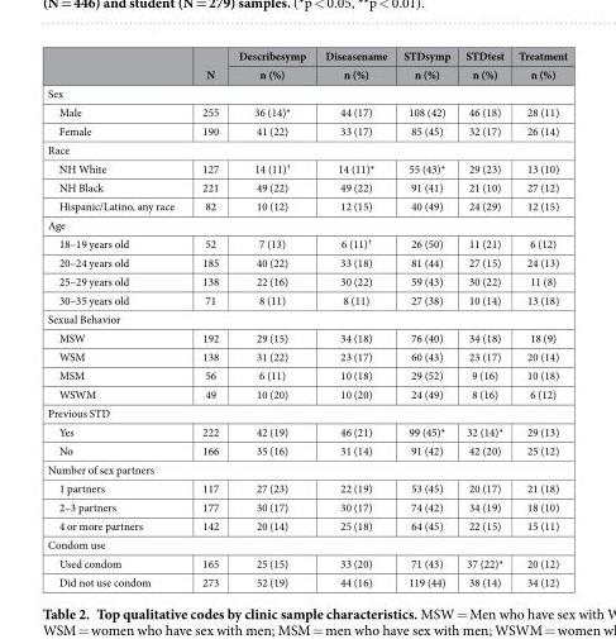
<table><thead><tr><td rowspan="2"></td><td rowspan="2">N</td><td rowspan="2">Describesymp n (%)</td><td rowspan="2">Diseasename n (%)</td><td rowspan="2">STDsymp n (%)</td><td rowspan="2">STDtest n (%)</td><td rowspan="2">Treatment n (%)</td></tr><tr></tr></thead><tbody><tr><td colspan="7">Sex</td></tr><tr><td>Male</td><td>255</td><td>36 (14)*</td><td>44 (17)</td><td>108 (42)</td><td>46 (18)</td><td>28 (11)</td></tr><tr><td>Female</td><td>190</td><td>41 (22)</td><td>33 (17)</td><td>85 (45)</td><td>32 (17)</td><td>26 (14)</td></tr><tr><td colspan="7">Race</td></tr><tr><td>NH White</td><td>127</td><td>14 (11)<sup>†</sup></td><td>14 (11)*</td><td>55 (43)*</td><td>29 (23)</td><td>13 (10)</td></tr><tr><td>NH Black</td><td>221</td><td>49 (22)</td><td>49 (22)</td><td>91 (41)</td><td>21 (10)</td><td>27 (12)</td></tr><tr><td>Hispanic/Latino, any race</td><td>82</td><td>10 (12)</td><td>12 (15)</td><td>40 (49)</td><td>24 (29)</td><td>12 (15)</td></tr><tr><td colspan="7">Age</td></tr><tr><td>18–19 years old</td><td>52</td><td>7 (13)</td><td>6 (11)<sup>†</sup></td><td>26 (50)</td><td>11 (21)</td><td>6 (12)</td></tr><tr><td>20–24 years old</td><td>185</td><td>40 (22)</td><td>33 (18)</td><td>81 (44)</td><td>27 (15)</td><td>24 (13)</td></tr><tr><td>25–29 years old</td><td>138</td><td>22 (16)</td><td>30 (22)</td><td>59 (43)</td><td>30 (22)</td><td>11 (8)</td></tr><tr><td>30–35 years old</td><td>71</td><td>8 (11)</td><td>8 (11)</td><td>27 (38)</td><td>10 (14)</td><td>13 (18)</td></tr><tr><td colspan="7">Sexual Behavior</td></tr><tr><td>MSW</td><td>192</td><td>29 (15)</td><td>34 (18)</td><td>76 (40)</td><td>34 (18)</td><td>18 (9)</td></tr><tr><td>WSM</td><td>138</td><td>31 (22)</td><td>23 (17)</td><td>60 (43)</td><td>23 (17)</td><td>20 (14)</td></tr><tr><td>MSM</td><td>56</td><td>6 (11)</td><td>10 (18)</td><td>29 (52)</td><td>9 (16)</td><td>10 (18)</td></tr><tr><td>WSWM</td><td>49</td><td>10 (20)</td><td>10 (20)</td><td>24 (49)</td><td>8 (16)</td><td>6 (12)</td></tr><tr><td colspan="7">Previous STD</td></tr><tr><td>Yes</td><td>222</td><td>42 (19)</td><td>46 (21)</td><td>99 (45)*</td><td>32 (14)*</td><td>29 (13)</td></tr><tr><td>No</td><td>166</td><td>35 (16)</td><td>31 (14)</td><td>91 (42)</td><td>42 (20)</td><td>25 (12)</td></tr><tr><td colspan="7">Number of sex partners</td></tr><tr><td>1 partners</td><td>117</td><td>27 (23)</td><td>22 (19)</td><td>53 (45)</td><td>20 (17)</td><td>21 (18)</td></tr><tr><td>2–3 partners</td><td>177</td><td>30 (17)</td><td>30 (17)</td><td>74 (42)</td><td>34 (19)</td><td>18 (10)</td></tr><tr><td>4 or more partners</td><td>142</td><td>20 (14)</td><td>25 (18)</td><td>64 (45)</td><td>22 (15)</td><td>15 (11)</td></tr><tr><td colspan="7">Condom use</td></tr><tr><td>Used condom</td><td>165</td><td>25 (15)</td><td>33 (20)</td><td>71 (43)</td><td>37 (22)*</td><td>20 (12)</td></tr><tr><td>Did not use condom</td><td>273</td><td>52 (19)</td><td>44 (16)</td><td>119 (44)</td><td>38 (14)</td><td>34 (12)</td></tr></tbody></table>